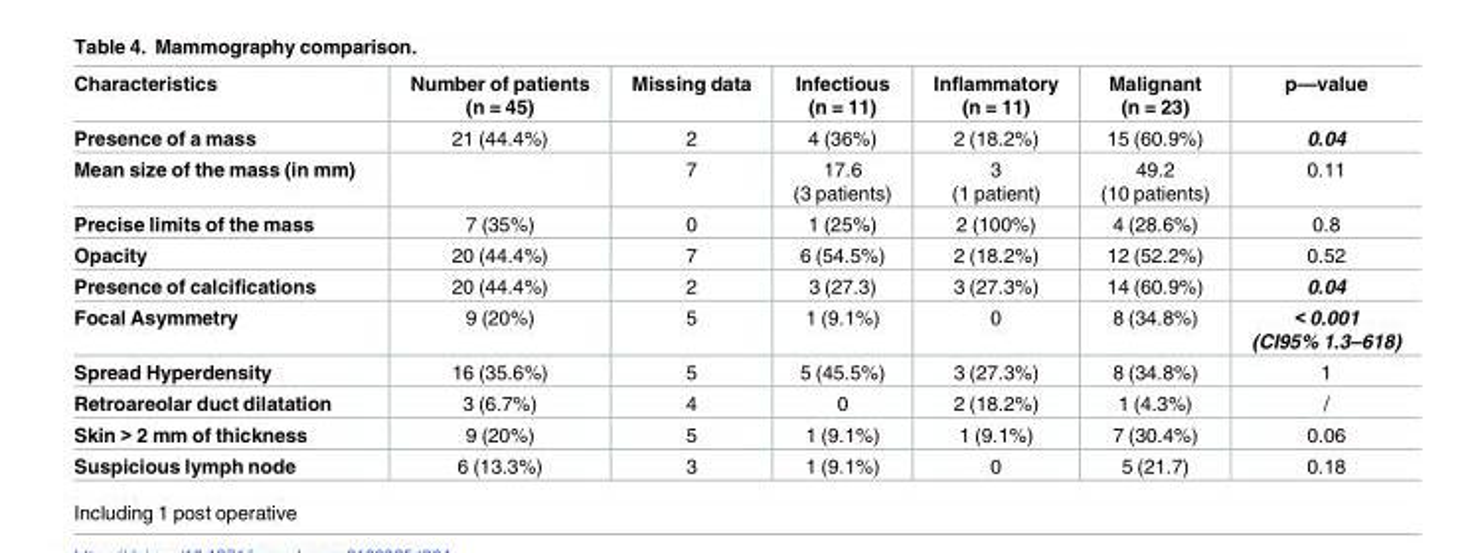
<table><thead><tr><td>Characteristics</td><td>Number of patients (n = 45)</td><td>Missing data</td><td>Infectious (n = 11)</td><td>Inflammatory (n = 11)</td><td>Malignant (n = 23)</td><td>p—value</td></tr></thead><tbody><tr><td>Presence of a mass</td><td>21 (44.4%)</td><td>2</td><td>4 (36%)</td><td>2 (18.2%)</td><td>15 (60.9%)</td><td>0.04</td></tr><tr><td>Mean size of the mass (in mm)</td><td></td><td>7</td><td>17.6 (3 patients)</td><td>3 (1 patient)</td><td>49.2 (10 patients)</td><td>0.11</td></tr><tr><td>Precise limits of the mass</td><td>7 (35%)</td><td>0</td><td>1 (25%)</td><td>2 (100%)</td><td>4 (28.6%)</td><td>0.8</td></tr><tr><td>Opacity</td><td>20 (44.4%)</td><td>7</td><td>6 (54.5%)</td><td>2 (18.2%)</td><td>12 (52.2%)</td><td>0.52</td></tr><tr><td>Presence of calcifications</td><td>20 (44.4%)</td><td>2</td><td>3 (27.3)</td><td>3 (27.3%)</td><td>14 (60.9%)</td><td>0.04</td></tr><tr><td>Focal Asymmetry</td><td>9 (20%)</td><td>5</td><td>1 (9.1%)</td><td>0</td><td>8 (34.8%)</td><td>&lt; 0.001 (CI95% 1.3–618)</td></tr><tr><td>Spread Hyperdensity</td><td>16 (35.6%)</td><td>5</td><td>5 (45.5%)</td><td>3 (27.3%)</td><td>8 (34.8%)</td><td>1</td></tr><tr><td>Retroareolar duct dilatation</td><td>3 (6.7%)</td><td>4</td><td>0</td><td>2 (18.2%)</td><td>1 (4.3%)</td><td>/</td></tr><tr><td>Skin &gt; 2 mm of thickness</td><td>9 (20%)</td><td>5</td><td>1 (9.1%)</td><td>1 (9.1%)</td><td>7 (30.4%)</td><td>0.06</td></tr><tr><td>Suspicious lymph node</td><td>6 (13.3%)</td><td>3</td><td>1 (9.1%)</td><td>0</td><td>5 (21.7)</td><td>0.18</td></tr></tbody></table>